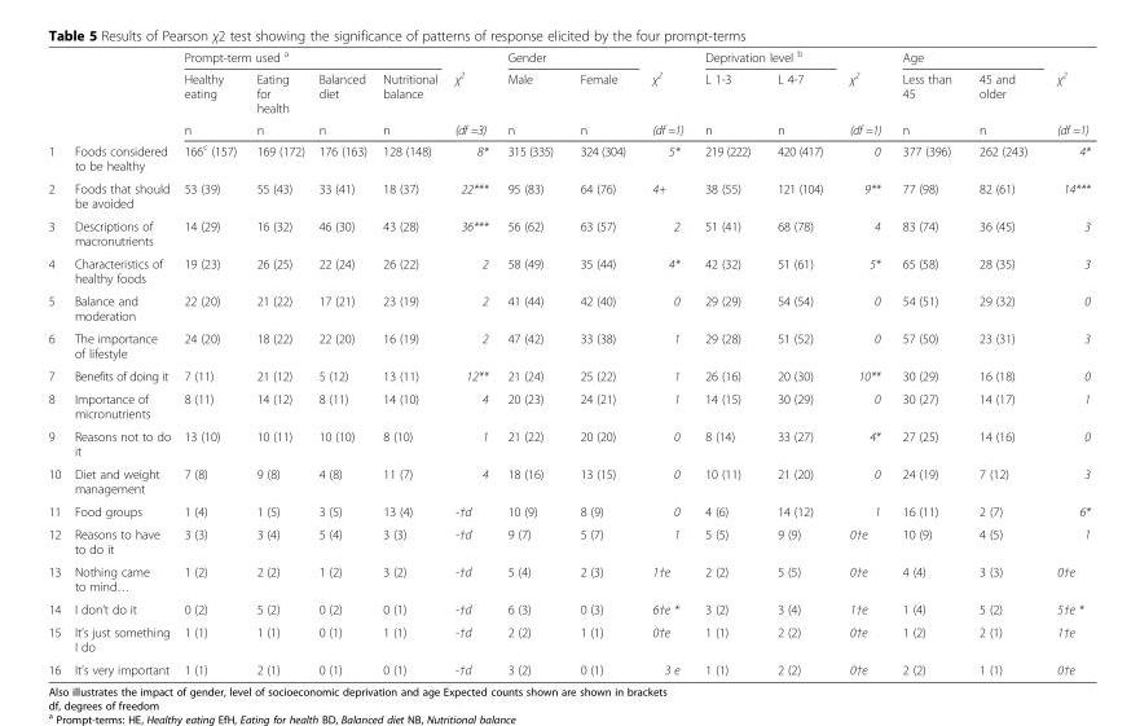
<table><thead><tr><td rowspan="3"></td><td rowspan="3"></td><td colspan="4">Prompt-term used <sup>a</sup></td><td rowspan="3">χ<sup>2</sup> (df =3)</td><td colspan="2">Gender</td><td rowspan="3">χ<sup>2</sup> (df =1)</td><td colspan="2">Deprivation level <sup>b</sup></td><td rowspan="3">χ<sup>2</sup> (df =1)</td><td colspan="2">Age</td><td rowspan="3">χ<sup>2</sup> (df =1)</td></tr><tr><td rowspan="2">Healthy eating n</td><td rowspan="2">Eating for health n</td><td rowspan="2">Balanced diet n</td><td rowspan="2">Nutritional balance n</td><td rowspan="2">Male n</td><td rowspan="2">Female n</td><td rowspan="2">L 1-3 n</td><td rowspan="2">L 4-7 n</td><td rowspan="2">Less than 45 n</td><td rowspan="2">45 and older n</td></tr><tr></tr></thead><tbody><tr><td>1</td><td>Foods considered to be healthy</td><td>166<sup>c</sup> (157)</td><td>169 (172)</td><td>176 (163)</td><td>128 (148)</td><td>8*</td><td>315 (335)</td><td>324 (304)</td><td>5*</td><td>219 (222)</td><td>420 (417)</td><td>0</td><td>377 (396)</td><td>262 (243)</td><td>4*</td></tr><tr><td>2</td><td>Foods that should be avoided</td><td>53 (39)</td><td>55 (43)</td><td>33 (41)</td><td>18 (37)</td><td>22***</td><td>95 (83)</td><td>64 (76)</td><td>4+</td><td>38 (55)</td><td>121 (104)</td><td>9**</td><td>77 (98)</td><td>82 (61)</td><td>14***</td></tr><tr><td>3</td><td>Descriptions of macronutrients</td><td>14 (29)</td><td>16 (32)</td><td>46 (30)</td><td>43 (28)</td><td>36***</td><td>56 (62)</td><td>63 (57)</td><td>2</td><td>51 (41)</td><td>68 (78)</td><td>4</td><td>83 (74)</td><td>36 (45)</td><td>3</td></tr><tr><td>4</td><td>Characteristics of healthy foods</td><td>19 (23)</td><td>26 (25)</td><td>22 (24)</td><td>26 (22)</td><td>2</td><td>58 (49)</td><td>35 (44)</td><td>4*</td><td>42 (32)</td><td>51 (61)</td><td>5*</td><td>65 (58)</td><td>28 (35)</td><td>3</td></tr><tr><td>5</td><td>Balance and moderation</td><td>22 (20)</td><td>21 (22)</td><td>17 (21)</td><td>23 (19)</td><td>2</td><td>41 (44)</td><td>42 (40)</td><td>0</td><td>29 (29)</td><td>54 (54)</td><td>0</td><td>54 (51)</td><td>29 (32)</td><td>0</td></tr><tr><td>6</td><td>The importance of lifestyle</td><td>24 (20)</td><td>18 (22)</td><td>22 (20)</td><td>16 (19)</td><td>2</td><td>47 (42)</td><td>33 (38)</td><td>1</td><td>29 (28)</td><td>51 (52)</td><td>0</td><td>57 (50)</td><td>23 (31)</td><td>3</td></tr><tr><td>7</td><td>Benefits of doing it</td><td>7 (11)</td><td>21 (12)</td><td>5 (12)</td><td>13 (11)</td><td>12**</td><td>21 (24)</td><td>25 (22)</td><td>1</td><td>26 (16)</td><td>20 (30)</td><td>10**</td><td>30 (29)</td><td>16 (18)</td><td>0</td></tr><tr><td>8</td><td>Importance of micronutrients</td><td>8 (11)</td><td>14 (12)</td><td>8 (11)</td><td>14 (10)</td><td>4</td><td>20 (23)</td><td>24 (21)</td><td>1</td><td>14 (15)</td><td>30 (29)</td><td>0</td><td>30 (27)</td><td>14 (17)</td><td>1</td></tr><tr><td>9</td><td>Reasons not to do it</td><td>13 (10)</td><td>10 (11)</td><td>10 (10)</td><td>8 (10)</td><td>1</td><td>21 (22)</td><td>20 (20)</td><td>0</td><td>8 (14)</td><td>33 (27)</td><td>4*</td><td>27 (25)</td><td>14 (16)</td><td>0</td></tr><tr><td>10</td><td>Diet and weight management</td><td>7 (8)</td><td>9 (8)</td><td>4 (8)</td><td>11 (7)</td><td>4</td><td>18 (16)</td><td>13 (15)</td><td>0</td><td>10 (11)</td><td>21 (20)</td><td>0</td><td>24 (19)</td><td>7 (12)</td><td>3</td></tr><tr><td>11</td><td>Food groups</td><td>1 (4)</td><td>1 (5)</td><td>3 (5)</td><td>13 (4)</td><td>-†d</td><td>10 (9)</td><td>8 (9)</td><td>0</td><td>4 (6)</td><td>14 (12)</td><td>1</td><td>16 (11)</td><td>2 (7)</td><td>6*</td></tr><tr><td>12</td><td>Reasons to have to do it</td><td>3 (3)</td><td>3 (4)</td><td>5 (4)</td><td>3 (3)</td><td>-†d</td><td>9 (7)</td><td>5 (7)</td><td>1</td><td>5 (5)</td><td>9 (9)</td><td>0†e</td><td>10 (9)</td><td>4 (5)</td><td>1</td></tr><tr><td>13</td><td>Nothing came to mind…</td><td>1 (2)</td><td>2 (2)</td><td>1 (2)</td><td>3 (2)</td><td>-†d</td><td>5 (4)</td><td>2 (3)</td><td>1†e</td><td>2 (2)</td><td>5 (5)</td><td>0†e</td><td>4 (4)</td><td>3 (3)</td><td>0†e</td></tr><tr><td>14</td><td>I don’t do it</td><td>0 (2)</td><td>5 (2)</td><td>0 (2)</td><td>0 (1)</td><td>-†d</td><td>6 (3)</td><td>0 (3)</td><td>6†e *</td><td>3 (2)</td><td>3 (4)</td><td>1†e</td><td>1 (4)</td><td>5 (2)</td><td>5†e *</td></tr><tr><td>15</td><td>It’s just something I do</td><td>1 (1)</td><td>1 (1)</td><td>0 (1)</td><td>1 (1)</td><td>-†d</td><td>2 (2)</td><td>1 (1)</td><td>0†e</td><td>1 (1)</td><td>2 (2)</td><td>0†e</td><td>1 (2)</td><td>2 (1)</td><td>1†e</td></tr><tr><td>16</td><td>It’s very important</td><td>1 (1)</td><td>2 (1)</td><td>0 (1)</td><td>0 (1)</td><td>-†d</td><td>3 (2)</td><td>0 (1)</td><td>3 e</td><td>1 (1)</td><td>2 (2)</td><td>0†e</td><td>2 (2)</td><td>1 (1)</td><td>0†e</td></tr></tbody></table>